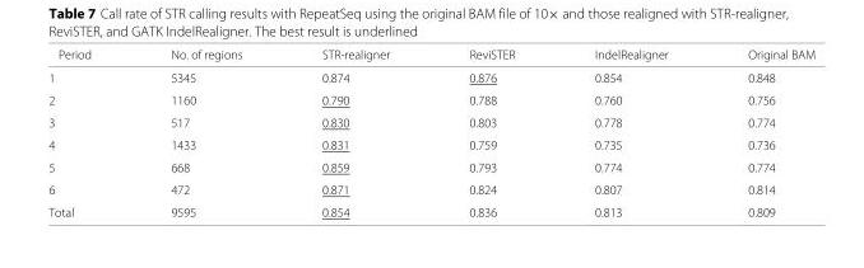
<table><thead><tr><td>Period</td><td>No. of regions</td><td>STR-realigner</td><td>ReviSTER</td><td>IndelRealigner</td><td>Original BAM</td></tr></thead><tbody><tr><td>1</td><td>5345</td><td>0.874</td><td>0.876</td><td>0.854</td><td>0.848</td></tr><tr><td>2</td><td>1160</td><td>0.790</td><td>0.788</td><td>0.760</td><td>0.756</td></tr><tr><td>3</td><td>517</td><td>0.830</td><td>0.803</td><td>0.778</td><td>0.774</td></tr><tr><td>4</td><td>1433</td><td>0.831</td><td>0.759</td><td>0.735</td><td>0.736</td></tr><tr><td>5</td><td>668</td><td>0.859</td><td>0.793</td><td>0.774</td><td>0.774</td></tr><tr><td>6</td><td>472</td><td>0.871</td><td>0.824</td><td>0.807</td><td>0.814</td></tr><tr><td>Total</td><td>9595</td><td>0.854</td><td>0.836</td><td>0.813</td><td>0.809</td></tr></tbody></table>